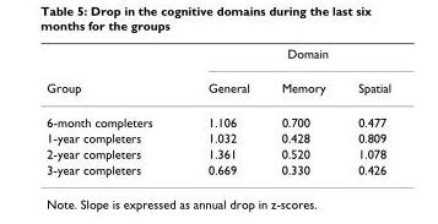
<table><thead><tr><td rowspan="2">Group</td><td colspan="3">Domain</td></tr><tr><td>General</td><td>Memory</td><td>Spatial</td></tr></thead><tbody><tr><td>6-month completers</td><td>1.106</td><td>0.700</td><td>0.477</td></tr><tr><td>1-year completers</td><td>1.032</td><td>0.428</td><td>0.809</td></tr><tr><td>2-year completers</td><td>1.361</td><td>0.520</td><td>1.078</td></tr><tr><td>3-year completers</td><td>0.669</td><td>0.330</td><td>0.426</td></tr></tbody></table>